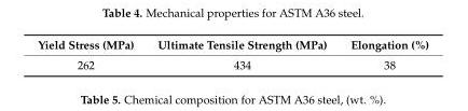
<table><thead><tr><td>Yield Stress (MPa)</td><td>Ultimate Tensile Strength (MPa)</td><td>Elongation (%)</td></tr></thead><tbody><tr><td>262</td><td>434</td><td>38</td></tr></tbody></table>